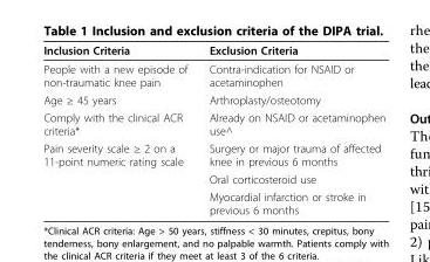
<table><thead><tr><td>Inclusion Criteria</td><td>Exclusion Criteria</td></tr></thead><tbody><tr><td>People with a new episode of non-traumatic knee pain</td><td>Contra-indication for NSAID or acetaminophen</td></tr><tr><td>Age ≥ 45 years</td><td>Arthroplasty/osteotomy</td></tr><tr><td>Comply with the clinical ACR criteria*</td><td>Already on NSAID or acetaminophen use^</td></tr><tr><td rowspan="3">Pain severity scale ≥ 2 on a 11-point numeric rating scale</td><td>Surgery or major trauma of affected knee in previous 6 months</td></tr><tr><td>Oral corticosteroid use</td></tr><tr><td>Myocardial infarction or stroke in previous 6 months</td></tr></tbody></table>